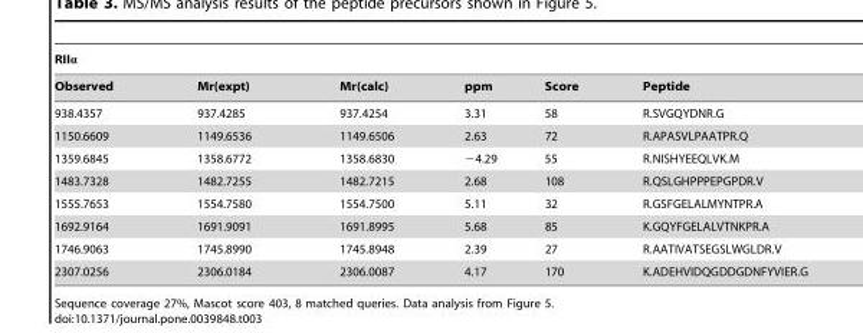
<table><thead><tr><td colspan="6">RIIα</td></tr><tr><td>Observed</td><td>Mr(expt)</td><td>Mr(calc)</td><td>ppm</td><td>Score</td><td>Peptide</td></tr></thead><tbody><tr><td>938.4357</td><td>937.4285</td><td>937.4254</td><td>3.31</td><td>58</td><td>R.SVGQYDNR.G</td></tr><tr><td>1150.6609</td><td>1149.6536</td><td>1149.6506</td><td>2.63</td><td>72</td><td>R.APASVLPAATPR.Q</td></tr><tr><td>1359.6845</td><td>1358.6772</td><td>1358.6830</td><td>−4.29</td><td>55</td><td>R.NISHYEEQLVK.M</td></tr><tr><td>1483.7328</td><td>1482.7255</td><td>1482.7215</td><td>2.68</td><td>108</td><td>R.QSLGHPPPEPGPDR.V</td></tr><tr><td>1555.7653</td><td>1554.7580</td><td>1554.7500</td><td>5.11</td><td>32</td><td>R.GSFGELALMYNTPR.A</td></tr><tr><td>1692.9164</td><td>1691.9091</td><td>1691.8995</td><td>5.68</td><td>85</td><td>K.GQYFGELALVTNKPR.A</td></tr><tr><td>1746.9063</td><td>1745.8990</td><td>1745.8948</td><td>2.39</td><td>27</td><td>R.AATIVATSEGSLWGLDR.V</td></tr><tr><td>2307.0256</td><td>2306.0184</td><td>2306.0087</td><td>4.17</td><td>170</td><td>K.ADEHVIDQGDDGDNFYVIER.G</td></tr></tbody></table>